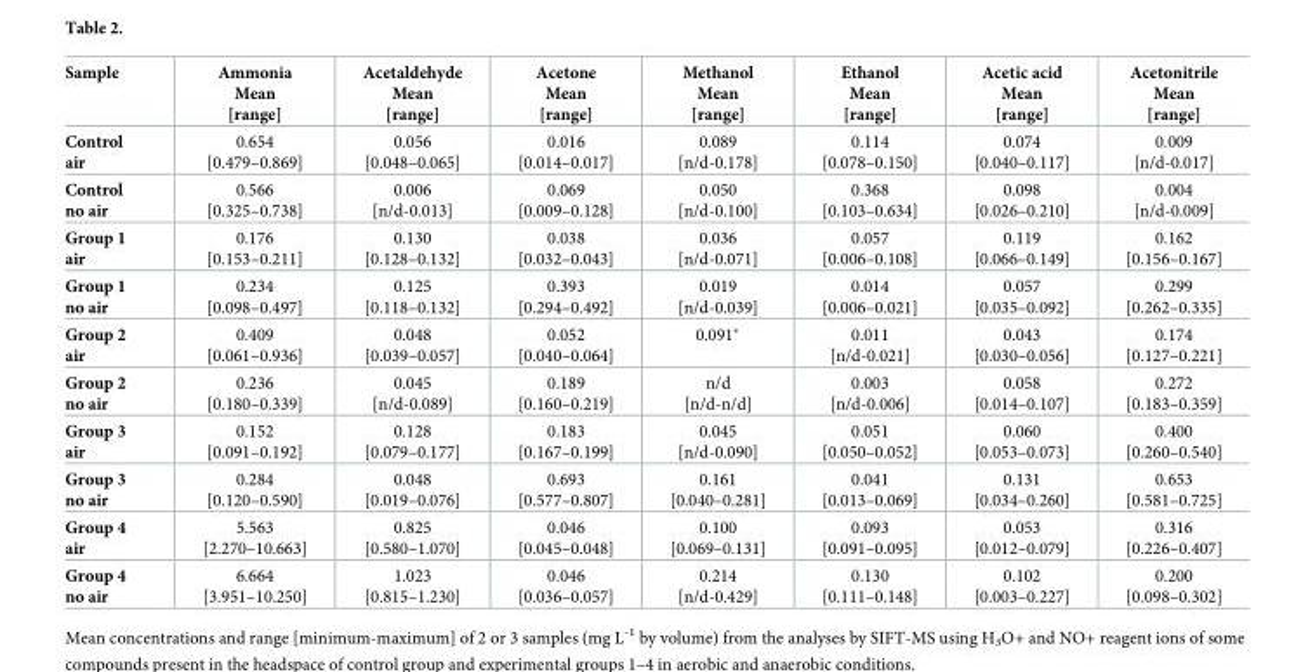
<table><thead><tr><td>Sample</td><td>Ammonia Mean [range]</td><td>Acetaldehyde Mean [range]</td><td>Acetone Mean [range]</td><td>Methanol Mean [range]</td><td>Ethanol Mean [range]</td><td>Acetic acid Mean [range]</td><td>Acetonitrile Mean [range]</td></tr></thead><tbody><tr><td>Control air</td><td>0.654 [0.479–0.869]</td><td>0.056 [0.048–0.065]</td><td>0.016 [0.014–0.017]</td><td>0.089 [n/d-0.178]</td><td>0.114 [0.078–0.150]</td><td>0.074 [0.040–0.117]</td><td>0.009 [n/d-0.017]</td></tr><tr><td>Control no air</td><td>0.566 [0.325–0.738]</td><td>0.006 [n/d-0.013]</td><td>0.069 [0.009–0.128]</td><td>0.050 [n/d-0.100]</td><td>0.368 [0.103–0.634]</td><td>0.098 [0.026–0.210]</td><td>0.004 [n/d-0.009]</td></tr><tr><td>Group 1 air</td><td>0.176 [0.153–0.211]</td><td>0.130 [0.128–0.132]</td><td>0.038 [0.032–0.043]</td><td>0.036 [n/d-0.071]</td><td>0.057 [0.006–0.108]</td><td>0.119 [0.066–0.149]</td><td>0.162 [0.156–0.167]</td></tr><tr><td>Group 1 no air</td><td>0.234 [0.098–0.497]</td><td>0.125 [0.118–0.132]</td><td>0.393 [0.294–0.492]</td><td>0.019 [n/d-0.039]</td><td>0.014 [0.006–0.021]</td><td>0.057 [0.035–0.092]</td><td>0.299 [0.262–0.335]</td></tr><tr><td>Group 2 air</td><td>0.409 [0.061–0.936]</td><td>0.048 [0.039–0.057]</td><td>0.052 [0.040–0.064]</td><td>0.091*</td><td>0.011 [n/d-0.021]</td><td>0.043 [0.030–0.056]</td><td>0.174 [0.127–0.221]</td></tr><tr><td>Group 2 no air</td><td>0.236 [0.180–0.339]</td><td>0.045 [n/d-0.089]</td><td>0.189 [0.160–0.219]</td><td>n/d [n/d-n/d]</td><td>0.003 [n/d-0.006]</td><td>0.058 [0.014–0.107]</td><td>0.272 [0.183–0.359]</td></tr><tr><td>Group 3 air</td><td>0.152 [0.091–0.192]</td><td>0.128 [0.079–0.177]</td><td>0.183 [0.167–0.199]</td><td>0.045 [n/d-0.090]</td><td>0.051 [0.050–0.052]</td><td>0.060 [0.053–0.073]</td><td>0.400 [0.260–0.540]</td></tr><tr><td>Group 3 no air</td><td>0.284 [0.120–0.590]</td><td>0.048 [0.019–0.076]</td><td>0.693 [0.577–0.807]</td><td>0.161 [0.040–0.281]</td><td>0.041 [0.013–0.069]</td><td>0.131 [0.034–0.260]</td><td>0.653 [0.581–0.725]</td></tr><tr><td>Group 4 air</td><td>5.563 [2.270–10.663]</td><td>0.825 [0.580–1.070]</td><td>0.046 [0.045–0.048]</td><td>0.100 [0.069–0.131]</td><td>0.093 [0.091–0.095]</td><td>0.053 [0.012–0.079]</td><td>0.316 [0.226–0.407]</td></tr><tr><td>Group 4 no air</td><td>6.664 [3.951–10.250]</td><td>1.023 [0.815–1.230]</td><td>0.046 [0.036–0.057]</td><td>0.214 [n/d-0.429]</td><td>0.130 [0.111–0.148]</td><td>0.102 [0.003–0.227]</td><td>0.200 [0.098–0.302]</td></tr></tbody></table>